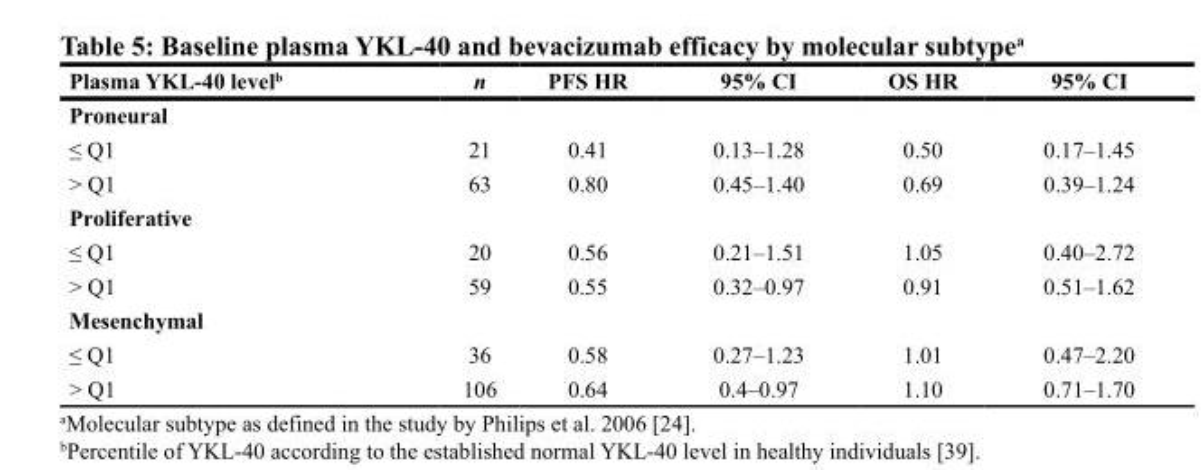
<table><thead><tr><td>Plasma YKL-40 level<sup>b</sup></td><td>n</td><td>PFS HR</td><td>95% CI</td><td>OS HR</td><td>95% CI</td></tr></thead><tbody><tr><td colspan="6">Proneural</td></tr><tr><td>≤ Q1</td><td>21</td><td>0.41</td><td>0.13–1.28</td><td>0.50</td><td>0.17–1.45</td></tr><tr><td>&gt; Q1</td><td>63</td><td>0.80</td><td>0.45–1.40</td><td>0.69</td><td>0.39–1.24</td></tr><tr><td colspan="6">Proliferative</td></tr><tr><td>≤ Q1</td><td>20</td><td>0.56</td><td>0.21–1.51</td><td>1.05</td><td>0.40–2.72</td></tr><tr><td>&gt; Q1</td><td>59</td><td>0.55</td><td>0.32–0.97</td><td>0.91</td><td>0.51–1.62</td></tr><tr><td colspan="6">Mesenchymal</td></tr><tr><td>≤ Q1</td><td>36</td><td>0.58</td><td>0.27–1.23</td><td>1.01</td><td>0.47–2.20</td></tr><tr><td>&gt; Q1</td><td>106</td><td>0.64</td><td>0.4–0.97</td><td>1.10</td><td>0.71–1.70</td></tr></tbody></table>